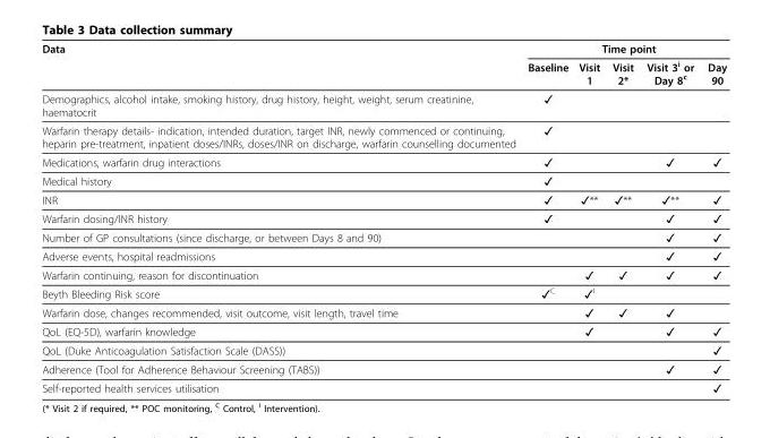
<table><thead><tr><td rowspan="2">Data</td><td colspan="5">Time point</td></tr><tr><td>Baseline</td><td>Visit 1</td><td>Visit 2*</td><td>Visit 3<sup>i</sup> or Day 8<sup>c</sup></td><td>Day 90</td></tr></thead><tbody><tr><td>Demographics, alcohol intake, smoking history, drug history, height, weight, serum creatinine, haematocrit</td><td>✓</td><td></td><td></td><td></td><td></td></tr><tr><td>Warfarin therapy details- indication, intended duration, target INR, newly commenced or continuing, heparin pre-treatment, inpatient doses/INRs, doses/INR on discharge, warfarin counselling documented</td><td>✓</td><td></td><td></td><td></td><td></td></tr><tr><td>Medications, warfarin drug interactions</td><td>✓</td><td></td><td></td><td>✓</td><td>✓</td></tr><tr><td>Medical history</td><td>✓</td><td></td><td></td><td></td><td></td></tr><tr><td>INR</td><td>✓</td><td>✓**</td><td>✓**</td><td>✓**</td><td>✓</td></tr><tr><td>Warfarin dosing/INR history</td><td>✓</td><td></td><td></td><td>✓</td><td>✓</td></tr><tr><td>Number of GP consultations (since discharge, or between Days 8 and 90)</td><td></td><td></td><td></td><td>✓</td><td>✓</td></tr><tr><td>Adverse events, hospital readmissions</td><td></td><td></td><td></td><td>✓</td><td>✓</td></tr><tr><td>Warfarin continuing, reason for discontinuation</td><td></td><td>✓</td><td>✓</td><td>✓</td><td>✓</td></tr><tr><td>Beyth Bleeding Risk score</td><td>✓<sup>C</sup></td><td>✓<sup>I</sup></td><td></td><td></td><td></td></tr><tr><td>Warfarin dose, changes recommended, visit outcome, visit length, travel time</td><td></td><td>✓</td><td>✓</td><td>✓</td><td></td></tr><tr><td>QoL (EQ-5D), warfarin knowledge</td><td></td><td>✓</td><td></td><td>✓</td><td>✓</td></tr><tr><td>QoL (Duke Anticoagulation Satisfaction Scale (DASS))</td><td></td><td></td><td></td><td></td><td>✓</td></tr><tr><td>Adherence (Tool for Adherence Behaviour Screening (TABS))</td><td></td><td></td><td></td><td>✓</td><td>✓</td></tr><tr><td>Self-reported health services utilisation</td><td></td><td></td><td></td><td></td><td>✓</td></tr></tbody></table>